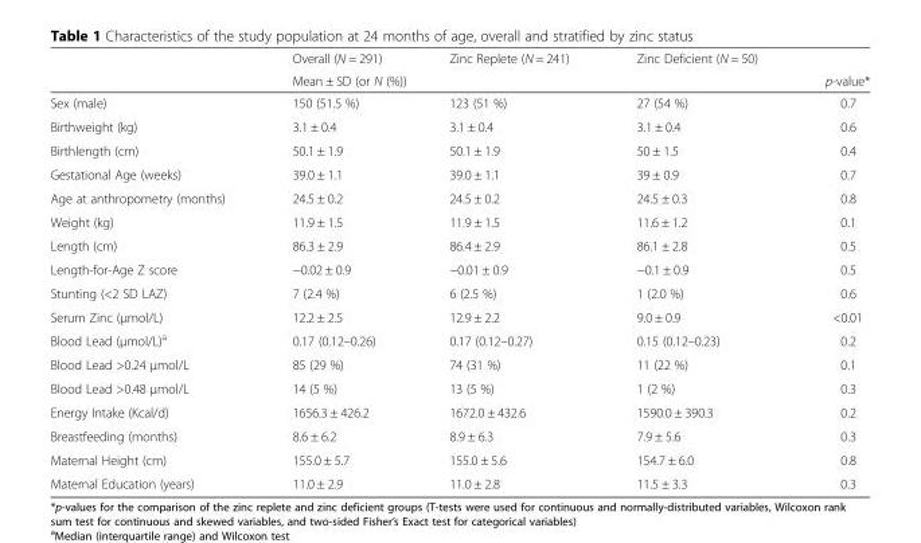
<table><thead><tr><td rowspan="2"></td><td>Overall (N = 291)</td><td>Zinc Replete (N = 241)</td><td>Zinc Deficient (N = 50)</td><td rowspan="2">p-value*</td></tr><tr><td colspan="3">Mean ± SD (or N (%))</td></tr></thead><tbody><tr><td>Sex (male)</td><td>150 (51.5 %)</td><td>123 (51 %)</td><td>27 (54 %)</td><td>0.7</td></tr><tr><td>Birthweight (kg)</td><td>3.1 ± 0.4</td><td>3.1 ± 0.4</td><td>3.1 ± 0.4</td><td>0.6</td></tr><tr><td>Birthlength (cm)</td><td>50.1 ± 1.9</td><td>50.1 ± 1.9</td><td>50 ± 1.5</td><td>0.4</td></tr><tr><td>Gestational Age (weeks)</td><td>39.0 ± 1.1</td><td>39.0 ± 1.1</td><td>39 ± 0.9</td><td>0.7</td></tr><tr><td>Age at anthropometry (months)</td><td>24.5 ± 0.2</td><td>24.5 ± 0.2</td><td>24.5 ± 0.3</td><td>0.8</td></tr><tr><td>Weight (kg)</td><td>11.9 ± 1.5</td><td>11.9 ± 1.5</td><td>11.6 ± 1.2</td><td>0.1</td></tr><tr><td>Length (cm)</td><td>86.3 ± 2.9</td><td>86.4 ± 2.9</td><td>86.1 ± 2.8</td><td>0.5</td></tr><tr><td>Length-for-Age Z score</td><td>−0.02 ± 0.9</td><td>−0.01 ± 0.9</td><td>−0.1 ± 0.9</td><td>0.5</td></tr><tr><td>Stunting (&lt;2 SD LAZ)</td><td>7 (2.4 %)</td><td>6 (2.5 %)</td><td>1 (2.0 %)</td><td>0.6</td></tr><tr><td>Serum Zinc (μmol/L)</td><td>12.2 ± 2.5</td><td>12.9 ± 2.2</td><td>9.0 ± 0.9</td><td>&lt;0.01</td></tr><tr><td>Blood Lead (μmol/L)<sup>a</sup></td><td>0.17 (0.12–0.26)</td><td>0.17 (0.12–0.27)</td><td>0.15 (0.12–0.23)</td><td>0.2</td></tr><tr><td>Blood Lead &gt;0.24 μmol/L</td><td>85 (29 %)</td><td>74 (31 %)</td><td>11 (22 %)</td><td>0.1</td></tr><tr><td>Blood Lead &gt;0.48 μmol/L</td><td>14 (5 %)</td><td>13 (5 %)</td><td>1 (2 %)</td><td>0.3</td></tr><tr><td>Energy Intake (Kcal/d)</td><td>1656.3 ± 426.2</td><td>1672.0 ± 432.6</td><td>1590.0 ± 390.3</td><td>0.2</td></tr><tr><td>Breastfeeding (months)</td><td>8.6 ± 6.2</td><td>8.9 ± 6.3</td><td>7.9 ± 5.6</td><td>0.3</td></tr><tr><td>Maternal Height (cm)</td><td>155.0 ± 5.7</td><td>155.0 ± 5.6</td><td>154.7 ± 6.0</td><td>0.8</td></tr><tr><td>Maternal Education (years)</td><td>11.0 ± 2.9</td><td>11.0 ± 2.8</td><td>11.5 ± 3.3</td><td>0.3</td></tr></tbody></table>